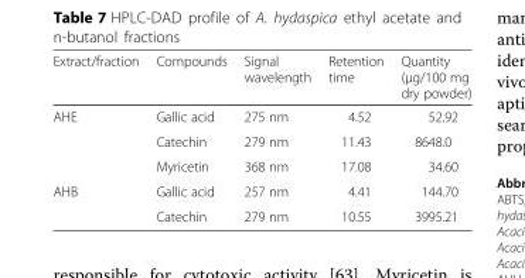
<table><thead><tr><td>Extract/fraction</td><td>Compounds</td><td>Signal wavelength</td><td>Retention time</td><td>Quantity (μg/100 mg dry powder)</td></tr></thead><tbody><tr><td rowspan="3">AHE</td><td>Gallic acid</td><td>275 nm</td><td>4.52</td><td>52.92</td></tr><tr><td>Catechin</td><td>279 nm</td><td>11.43</td><td>8648.0</td></tr><tr><td>Myricetin</td><td>368 nm</td><td>17.08</td><td>34.60</td></tr><tr><td rowspan="2">AHB</td><td>Gallic acid</td><td>257 nm</td><td>4.41</td><td>144.70</td></tr><tr><td>Catechin</td><td>279 nm</td><td>10.55</td><td>3995.21</td></tr></tbody></table>